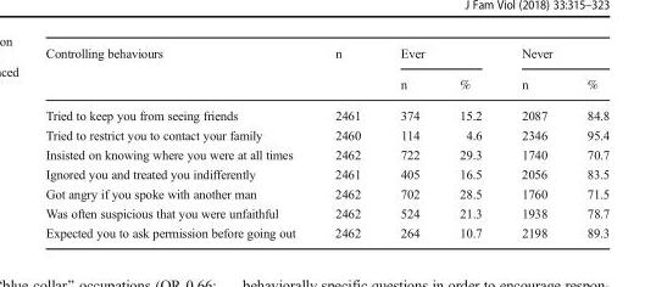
<table><thead><tr><td rowspan="2">Controlling behaviours</td><td rowspan="2">n</td><td colspan="2">Ever</td><td colspan="2">Never</td></tr><tr><td>n</td><td>%</td><td>n</td><td>%</td></tr></thead><tbody><tr><td>Tried to keep you from seeing friends</td><td>2461</td><td>374</td><td>15.2</td><td>2087</td><td>84.8</td></tr><tr><td>Tried to restrict you to contact your family</td><td>2460</td><td>114</td><td>4.6</td><td>2346</td><td>95.4</td></tr><tr><td>Insisted on knowing where you were at all times</td><td>2462</td><td>722</td><td>29.3</td><td>1740</td><td>70.7</td></tr><tr><td>Ignored you and treated you indifferently</td><td>2461</td><td>405</td><td>16.5</td><td>2056</td><td>83.5</td></tr><tr><td>Got angry if you spoke with another man</td><td>2462</td><td>702</td><td>28.5</td><td>1760</td><td>71.5</td></tr><tr><td>Was often suspicious that you were unfaithful</td><td>2462</td><td>524</td><td>21.3</td><td>1938</td><td>78.7</td></tr><tr><td>Expected you to ask permission before going out</td><td>2462</td><td>264</td><td>10.7</td><td>2198</td><td>89.3</td></tr></tbody></table>